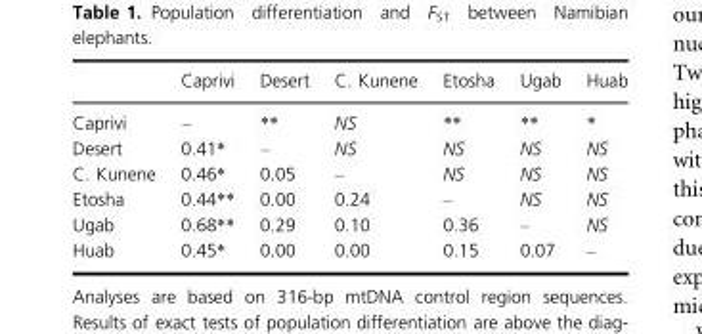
<table><thead><tr><td></td><td>Caprivi</td><td>Desert</td><td>C. Kunene</td><td>Etosha</td><td>Ugab</td><td>Huab</td></tr></thead><tbody><tr><td>Caprivi</td><td>–</td><td>**</td><td>NS</td><td>**</td><td>**</td><td>*</td></tr><tr><td>Desert</td><td>0.41*</td><td>–</td><td>NS</td><td>NS</td><td>NS</td><td>NS</td></tr><tr><td>C. Kunene</td><td>0.46*</td><td>0.05</td><td>–</td><td>NS</td><td>NS</td><td>NS</td></tr><tr><td>Etosha</td><td>0.44**</td><td>0.00</td><td>0.24</td><td>–</td><td>NS</td><td>NS</td></tr><tr><td>Ugab</td><td>0.68**</td><td>0.29</td><td>0.10</td><td>0.36</td><td>–</td><td>NS</td></tr><tr><td>Huab</td><td>0.45*</td><td>0.00</td><td>0.00</td><td>0.15</td><td>0.07</td><td>–</td></tr></tbody></table>